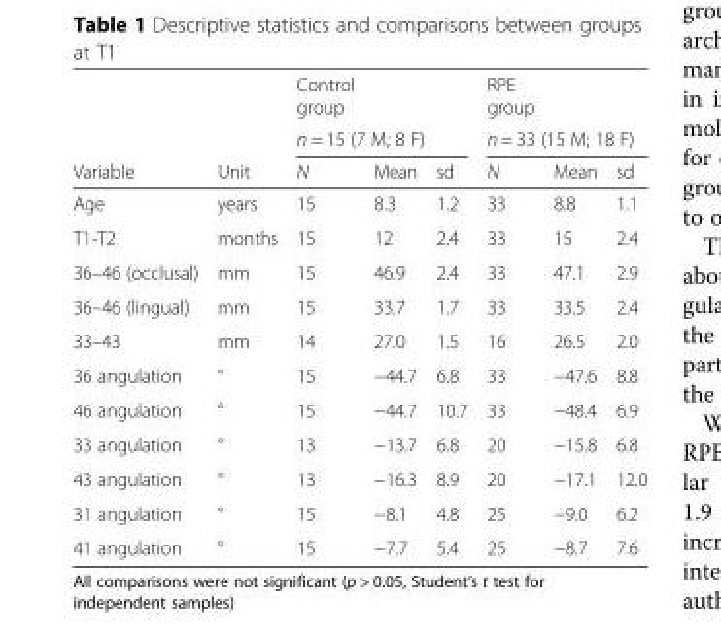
<table><thead><tr><td rowspan="3">Variable</td><td rowspan="3">Unit</td><td>Control group</td><td></td><td></td><td>RPE group</td><td></td><td></td></tr><tr><td colspan="3">n = 15 (7 M; 8 F)</td><td colspan="3">n = 33 (15 M; 18 F)</td></tr><tr><td>N</td><td>Mean</td><td>sd</td><td>N</td><td>Mean</td><td>sd</td></tr></thead><tbody><tr><td>Age</td><td>years</td><td>15</td><td>8.3</td><td>1.2</td><td>33</td><td>8.8</td><td>1.1</td></tr><tr><td>T1-T2</td><td>months</td><td>15</td><td>12</td><td>2.4</td><td>33</td><td>15</td><td>2.4</td></tr><tr><td>36–46 (occlusal)</td><td>mm</td><td>15</td><td>46.9</td><td>2.4</td><td>33</td><td>47.1</td><td>2.9</td></tr><tr><td>36–46 (lingual)</td><td>mm</td><td>15</td><td>33.7</td><td>1.7</td><td>33</td><td>33.5</td><td>2.4</td></tr><tr><td>33–43</td><td>mm</td><td>14</td><td>27.0</td><td>1.5</td><td>16</td><td>26.5</td><td>2.0</td></tr><tr><td>36 angulation</td><td>°</td><td>15</td><td>−44.7</td><td>6.8</td><td>33</td><td>−47.6</td><td>8.8</td></tr><tr><td>46 angulation</td><td>°</td><td>15</td><td>−44.7</td><td>10.7</td><td>33</td><td>−48.4</td><td>6.9</td></tr><tr><td>33 angulation</td><td>°</td><td>13</td><td>−13.7</td><td>6.8</td><td>20</td><td>−15.8</td><td>6.8</td></tr><tr><td>43 angulation</td><td>°</td><td>13</td><td>−16.3</td><td>8.9</td><td>20</td><td>−17.1</td><td>12.0</td></tr><tr><td>31 angulation</td><td>°</td><td>15</td><td>−8.1</td><td>4.8</td><td>25</td><td>−9.0</td><td>6.2</td></tr><tr><td>41 angulation</td><td>°</td><td>15</td><td>−7.7</td><td>5.4</td><td>25</td><td>−8.7</td><td>7.6</td></tr></tbody></table>